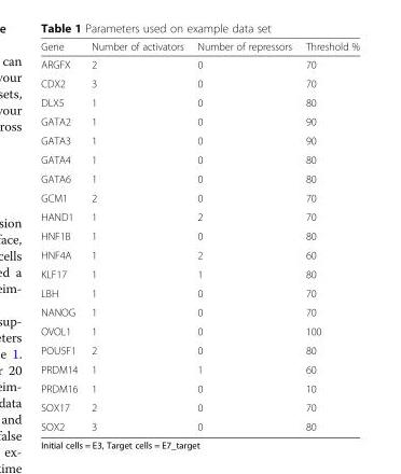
<table><thead><tr><td>Gene</td><td>Number of activators</td><td>Number of repressors</td><td>Threshold %</td></tr></thead><tbody><tr><td>ARGFX</td><td>2</td><td>0</td><td>70</td></tr><tr><td>CDX2</td><td>3</td><td>0</td><td>70</td></tr><tr><td>DLX5</td><td>1</td><td>0</td><td>80</td></tr><tr><td>GATA2</td><td>1</td><td>0</td><td>90</td></tr><tr><td>GATA3</td><td>1</td><td>0</td><td>90</td></tr><tr><td>GATA4</td><td>1</td><td>0</td><td>80</td></tr><tr><td>GATA6</td><td>1</td><td>0</td><td>80</td></tr><tr><td>GCM1</td><td>2</td><td>0</td><td>70</td></tr><tr><td>HAND1</td><td>1</td><td>2</td><td>70</td></tr><tr><td>HNF1B</td><td>1</td><td>0</td><td>80</td></tr><tr><td>HNF4A</td><td>1</td><td>2</td><td>60</td></tr><tr><td>KLF17</td><td>1</td><td>1</td><td>80</td></tr><tr><td>LBH</td><td>1</td><td>0</td><td>70</td></tr><tr><td>NANOG</td><td>1</td><td>0</td><td>70</td></tr><tr><td>OVOL1</td><td>1</td><td>0</td><td>100</td></tr><tr><td>POU5F1</td><td>2</td><td>0</td><td>80</td></tr><tr><td>PRDM14</td><td>1</td><td>1</td><td>60</td></tr><tr><td>PRDM16</td><td>1</td><td>0</td><td>10</td></tr><tr><td>SOX17</td><td>2</td><td>0</td><td>70</td></tr><tr><td>SOX2</td><td>3</td><td>0</td><td>80</td></tr></tbody></table>